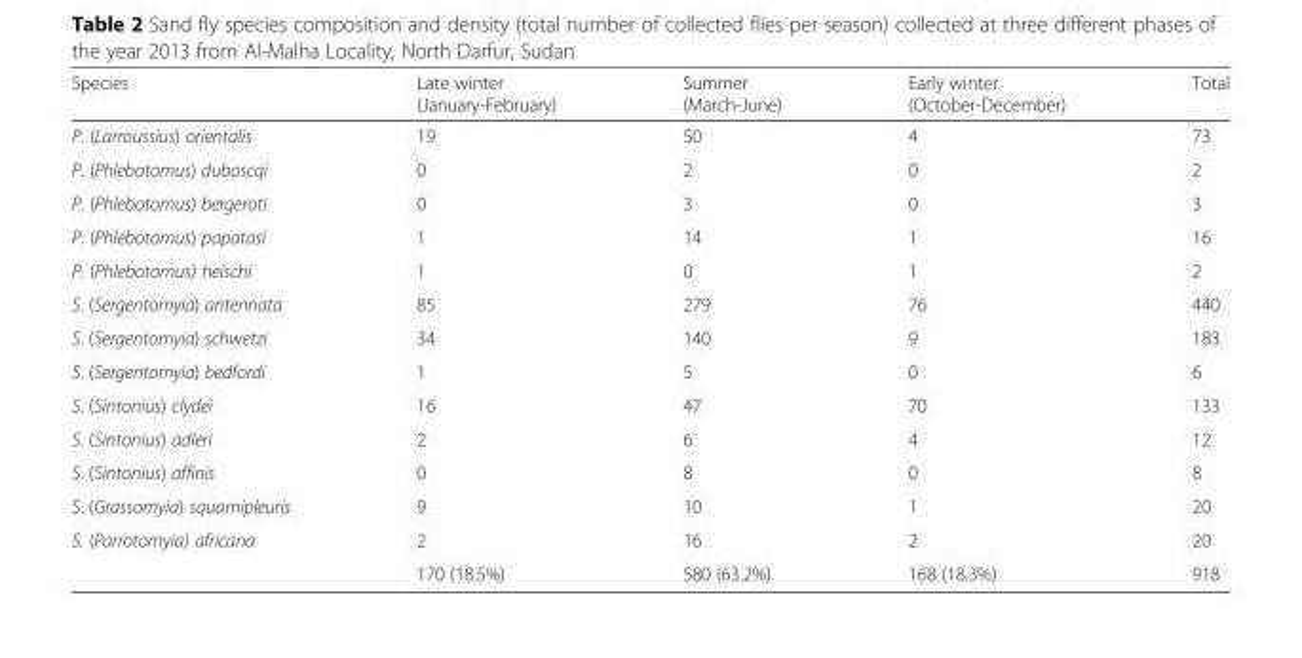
<table><thead><tr><td>Species</td><td>Late winter (January-February)</td><td>Summer (March-June)</td><td>Early winter (October-December)</td><td>Total</td></tr></thead><tbody><tr><td>P. (Larroussius) orientalis</td><td>19</td><td>50</td><td>4</td><td>73</td></tr><tr><td>P. (Phlebotomus) duboscqi</td><td>0</td><td>2</td><td>0</td><td>2</td></tr><tr><td>P. (Phlebotomus) bergeroti</td><td>0</td><td>3</td><td>0</td><td>3</td></tr><tr><td>P. (Phlebotomus) papatasi</td><td>1</td><td>14</td><td>1</td><td>16</td></tr><tr><td>P. (Phlebotomus) heischi</td><td>1</td><td>0</td><td>1</td><td>2</td></tr><tr><td>S. (Sergentomyia) antennata</td><td>85</td><td>279</td><td>76</td><td>440</td></tr><tr><td>S. (Sergentomyia) schwetzi</td><td>34</td><td>140</td><td>9</td><td>183</td></tr><tr><td>S. (Sergentomyia) bedfordi</td><td>1</td><td>5</td><td>0</td><td>6</td></tr><tr><td>S. (Sintonius) clydei</td><td>16</td><td>47</td><td>70</td><td>133</td></tr><tr><td>S. (Sintonius) adleri</td><td>2</td><td>6</td><td>4</td><td>12</td></tr><tr><td>S. (Sintonius) affinis</td><td>0</td><td>8</td><td>0</td><td>8</td></tr><tr><td>S. (Grassomyia) squamipleuris</td><td>9</td><td>10</td><td>1</td><td>20</td></tr><tr><td rowspan="2">S. (Parrotomyia) africana</td><td>2</td><td>16</td><td>2</td><td>20</td></tr><tr><td>170 (18.5%)</td><td>580 (63.2%)</td><td>168 (18.3%)</td><td>918</td></tr></tbody></table>